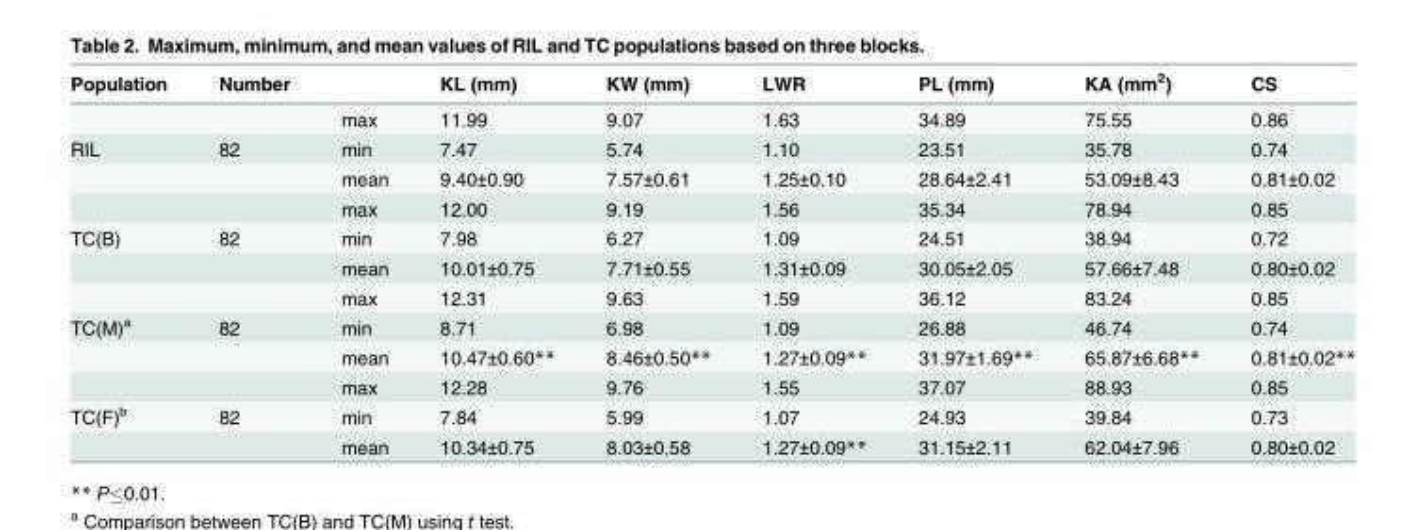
<table><thead><tr><td>Population</td><td>Number</td><td></td><td>KL (mm)</td><td>KW (mm)</td><td>LWR</td><td>PL (mm)</td><td>KA (mm<sup>2</sup>)</td><td>CS</td></tr></thead><tbody><tr><td></td><td></td><td>max</td><td>11.99</td><td>9.07</td><td>1.63</td><td>34.89</td><td>75.55</td><td>0.86</td></tr><tr><td rowspan="3">RIL</td><td>82</td><td>min</td><td>7.47</td><td>5.74</td><td>1.10</td><td>23.51</td><td>35.78</td><td>0.74</td></tr><tr><td></td><td>mean</td><td>9.40±0.90</td><td>7.57±0.61</td><td>1.25±0.10</td><td>28.64±2.41</td><td>53.09±8.43</td><td>0.81±0.02</td></tr><tr><td></td><td>max</td><td>12.00</td><td>9.19</td><td>1.56</td><td>35.34</td><td>78.94</td><td>0.85</td></tr><tr><td rowspan="3">TC(B)</td><td>82</td><td>min</td><td>7.98</td><td>6.27</td><td>1.09</td><td>24.51</td><td>38.94</td><td>0.72</td></tr><tr><td></td><td>mean</td><td>10.01±0.75</td><td>7.71±0.55</td><td>1.31±0.09</td><td>30.05±2.05</td><td>57.66±7.48</td><td>0.80±0.02</td></tr><tr><td></td><td>max</td><td>12.31</td><td>9.63</td><td>1.59</td><td>36.12</td><td>83.24</td><td>0.85</td></tr><tr><td rowspan="3">TC(M)<sup>a</sup></td><td>82</td><td>min</td><td>8.71</td><td>6.98</td><td>1.09</td><td>26.88</td><td>46.74</td><td>0.74</td></tr><tr><td></td><td>mean</td><td>10.47±0.60**</td><td>8.46±0.50**</td><td>1.27±0.09**</td><td>31.97±1.69**</td><td>65.87±6.68**</td><td>0.81±0.02**</td></tr><tr><td></td><td>max</td><td>12.28</td><td>9.76</td><td>1.55</td><td>37.07</td><td>88.93</td><td>0.85</td></tr><tr><td rowspan="2">TC(F)<sup>b</sup></td><td>82</td><td>min</td><td>7.84</td><td>5.99</td><td>1.07</td><td>24.93</td><td>39.84</td><td>0.73</td></tr><tr><td></td><td>mean</td><td>10.34±0.75</td><td>8.03±0.58</td><td>1.27±0.09**</td><td>31.15±2.11</td><td>62.04±7.96</td><td>0.80±0.02</td></tr></tbody></table>